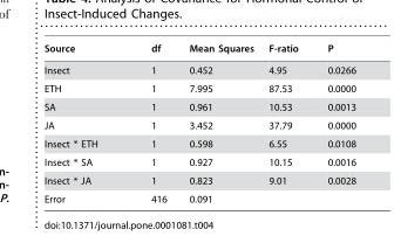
<table><thead><tr><td>Source</td><td>df</td><td>Mean Squares</td><td>F-ratio</td><td>P</td></tr></thead><tbody><tr><td>Insect</td><td>1</td><td>0.452</td><td>4.95</td><td>0.0266</td></tr><tr><td>ETH</td><td>1</td><td>7.995</td><td>87.53</td><td>0.0000</td></tr><tr><td>SA</td><td>1</td><td>0.961</td><td>10.53</td><td>0.0013</td></tr><tr><td>JA</td><td>1</td><td>3.452</td><td>37.79</td><td>0.0000</td></tr><tr><td>Insect * ETH</td><td>1</td><td>0.598</td><td>6.55</td><td>0.0108</td></tr><tr><td>Insect * SA</td><td>1</td><td>0.927</td><td>10.15</td><td>0.0016</td></tr><tr><td>Insect * JA</td><td>1</td><td>0.823</td><td>9.01</td><td>0.0028</td></tr><tr><td>Error</td><td>416</td><td>0.091</td><td></td><td></td></tr></tbody></table>